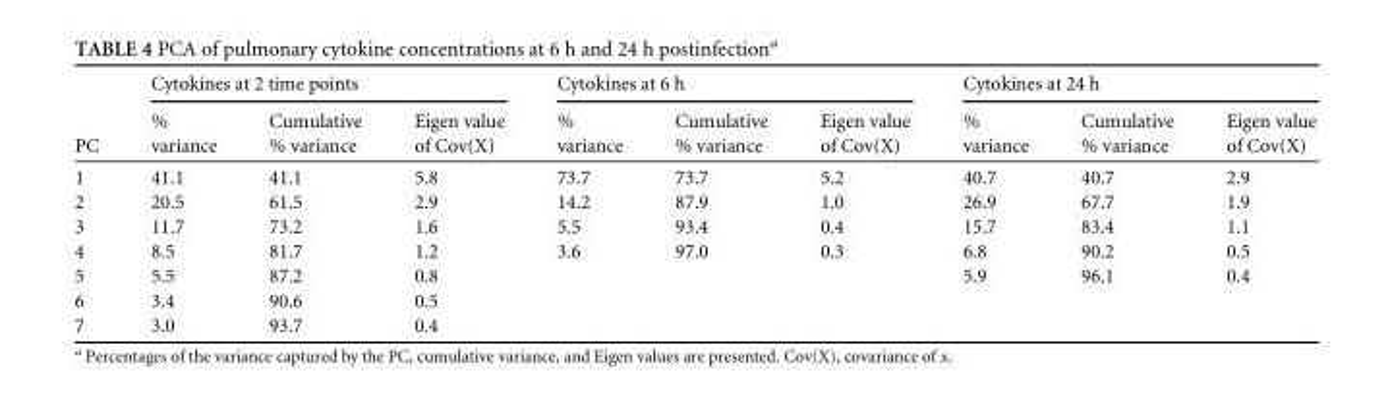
<table><thead><tr><td rowspan="2">PC</td><td colspan="3">Cytokines at 2 time points</td><td colspan="3">Cytokines at 6 h</td><td colspan="3">Cytokines at 24 h</td></tr><tr><td>% variance</td><td>Cumulative % variance</td><td>Eigen value of Cov(X)</td><td>% variance</td><td>Cumulative % variance</td><td>Eigen value of Cov(X)</td><td>% variance</td><td>Cumulative % variance</td><td>Eigen value of Cov(X)</td></tr></thead><tbody><tr><td>1</td><td>41.1</td><td>41.1</td><td>5.8</td><td>73.7</td><td>73.7</td><td>5.2</td><td>40.7</td><td>40.7</td><td>2.9</td></tr><tr><td>2</td><td>20.5</td><td>61.5</td><td>2.9</td><td>14.2</td><td>87.9</td><td>1.0</td><td>26.9</td><td>67.7</td><td>1.9</td></tr><tr><td>3</td><td>11.7</td><td>73.2</td><td>1.6</td><td>5.5</td><td>93.4</td><td>0.4</td><td>15.7</td><td>83.4</td><td>1.1</td></tr><tr><td>4</td><td>8.5</td><td>81.7</td><td>1.2</td><td>3.6</td><td>97.0</td><td>0.3</td><td>6.8</td><td>90.2</td><td>0.5</td></tr><tr><td>5</td><td>5.5</td><td>87.2</td><td>0.8</td><td></td><td></td><td></td><td>5.9</td><td>96.1</td><td>0.4</td></tr><tr><td>6</td><td>3.4</td><td>90.6</td><td>0.5</td><td></td><td></td><td></td><td></td><td></td><td></td></tr><tr><td>7</td><td>3.0</td><td>93.7</td><td>0.4</td><td></td><td></td><td></td><td></td><td></td><td></td></tr></tbody></table>